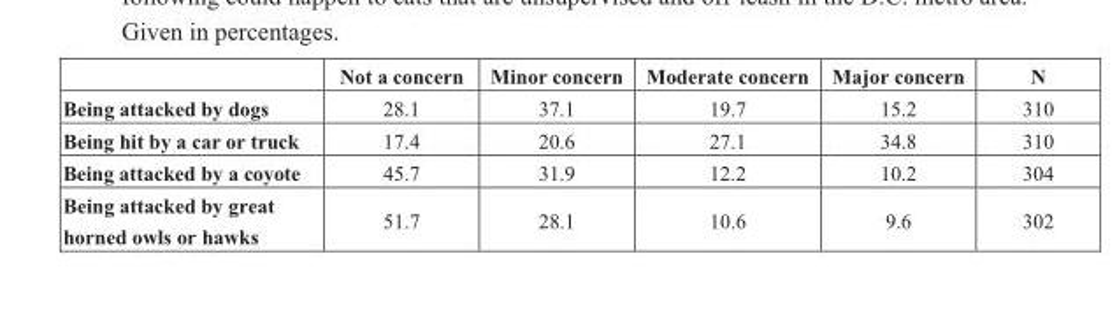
<table><thead><tr><td></td><td>Not a concern</td><td>Minor concern</td><td>Moderate concern</td><td>Major concern</td><td>N</td></tr></thead><tbody><tr><td>Being attacked by dogs</td><td>28.1</td><td>37.1</td><td>19.7</td><td>15.2</td><td>310</td></tr><tr><td>Being hit by a car or truck</td><td>17.4</td><td>20.6</td><td>27.1</td><td>34.8</td><td>310</td></tr><tr><td>Being attacked by a coyote</td><td>45.7</td><td>31.9</td><td>12.2</td><td>10.2</td><td>304</td></tr><tr><td>Being attacked by great horned owls or hawks</td><td>51.7</td><td>28.1</td><td>10.6</td><td>9.6</td><td>302</td></tr></tbody></table>